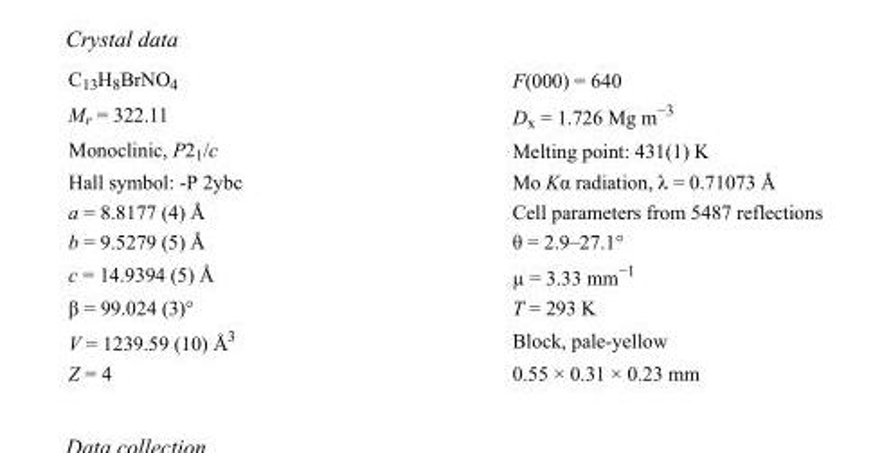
<table><tbody><tr><td>C<sub>13</sub>H<sub>8</sub>BrNO<sub>4</sub></td><td>F(000) = 640</td></tr><tr><td>M<sub>r</sub> = 322.11</td><td>D<sub>x</sub> = 1.726 Mg m<sup>−3</sup></td></tr><tr><td>Monoclinic, P2<sub>1</sub>/c</td><td>Melting point: 431(1) K</td></tr><tr><td>Hall symbol: -P 2ybc</td><td>Mo Kα radiation, λ = 0.71073 Å</td></tr><tr><td>a = 8.8177 (4) Å</td><td>Cell parameters from 5487 reflections</td></tr><tr><td>b = 9.5279 (5) Å</td><td>θ = 2.9–27.1°</td></tr><tr><td>c = 14.9394 (5) Å</td><td>µ = 3.33 mm<sup>−1</sup></td></tr><tr><td>β = 99.024 (3)°</td><td>T = 293 K</td></tr><tr><td>V = 1239.59 (10) Å<sup>3</sup></td><td>Block, pale-yellow</td></tr><tr><td>Z = 4</td><td>0.55 × 0.31 × 0.23 mm</td></tr></tbody></table>